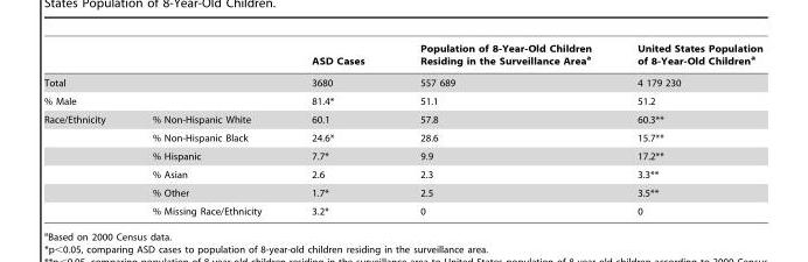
<table><thead><tr><td></td><td></td><td>ASD Cases</td><td>Population of 8-Year-Old Children Residing in the Surveillance Area<sup>a</sup></td><td>United States Population of 8-Year-Old Children<sup>a</sup></td></tr></thead><tbody><tr><td>Total</td><td></td><td>3680</td><td>557 689</td><td>4 179 230</td></tr><tr><td>% Male</td><td></td><td>81.4*</td><td>51.1</td><td>51.2</td></tr><tr><td rowspan="6">Race/Ethnicity</td><td>% Non-Hispanic White</td><td>60.1</td><td>57.8</td><td>60.3**</td></tr><tr><td>% Non-Hispanic Black</td><td>24.6*</td><td>28.6</td><td>15.7**</td></tr><tr><td>% Hispanic</td><td>7.7*</td><td>9.9</td><td>17.2**</td></tr><tr><td>% Asian</td><td>2.6</td><td>2.3</td><td>3.3**</td></tr><tr><td>% Other</td><td>1.7*</td><td>2.5</td><td>3.5**</td></tr><tr><td>% Missing Race/Ethnicity</td><td>3.2*</td><td>0</td><td>0</td></tr></tbody></table>